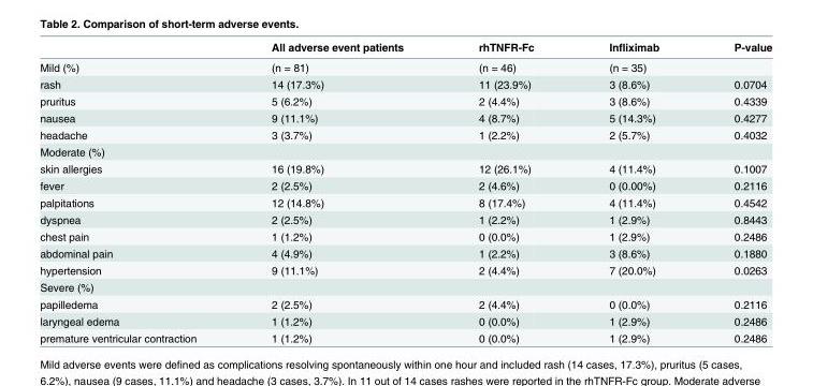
<table><thead><tr><td></td><td>All adverse event patients</td><td>rhTNFR-Fc</td><td>Infliximab</td><td>P-value</td></tr></thead><tbody><tr><td>Mild (%)</td><td>(n = 81)</td><td>(n = 46)</td><td>(n = 35)</td><td></td></tr><tr><td>rash</td><td>14 (17.3%)</td><td>11 (23.9%)</td><td>3 (8.6%)</td><td>0.0704</td></tr><tr><td>pruritus</td><td>5 (6.2%)</td><td>2 (4.4%)</td><td>3 (8.6%)</td><td>0.4339</td></tr><tr><td>nausea</td><td>9 (11.1%)</td><td>4 (8.7%)</td><td>5 (14.3%)</td><td>0.4277</td></tr><tr><td>headache</td><td>3 (3.7%)</td><td>1 (2.2%)</td><td>2 (5.7%)</td><td>0.4032</td></tr><tr><td colspan="5">Moderate (%)</td></tr><tr><td>skin allergies</td><td>16 (19.8%)</td><td>12 (26.1%)</td><td>4 (11.4%)</td><td>0.1007</td></tr><tr><td>fever</td><td>2 (2.5%)</td><td>2 (4.6%)</td><td>0 (0.00%)</td><td>0.2116</td></tr><tr><td>palpitations</td><td>12 (14.8%)</td><td>8 (17.4%)</td><td>4 (11.4%)</td><td>0.4542</td></tr><tr><td>dyspnea</td><td>2 (2.5%)</td><td>1 (2.2%)</td><td>1 (2.9%)</td><td>0.8443</td></tr><tr><td>chest pain</td><td>1 (1.2%)</td><td>0 (0.0%)</td><td>1 (2.9%)</td><td>0.2486</td></tr><tr><td>abdominal pain</td><td>4 (4.9%)</td><td>1 (2.2%)</td><td>3 (8.6%)</td><td>0.1880</td></tr><tr><td>hypertension</td><td>9 (11.1%)</td><td>2 (4.4%)</td><td>7 (20.0%)</td><td>0.0263</td></tr><tr><td colspan="5">Severe (%)</td></tr><tr><td>papilledema</td><td>2 (2.5%)</td><td>2 (4.4%)</td><td>0 (0.0%)</td><td>0.2116</td></tr><tr><td>laryngeal edema</td><td>1 (1.2%)</td><td>0 (0.0%)</td><td>1 (2.9%)</td><td>0.2486</td></tr><tr><td>premature ventricular contraction</td><td>1 (1.2%)</td><td>0 (0.0%)</td><td>1 (2.9%)</td><td>0.2486</td></tr></tbody></table>